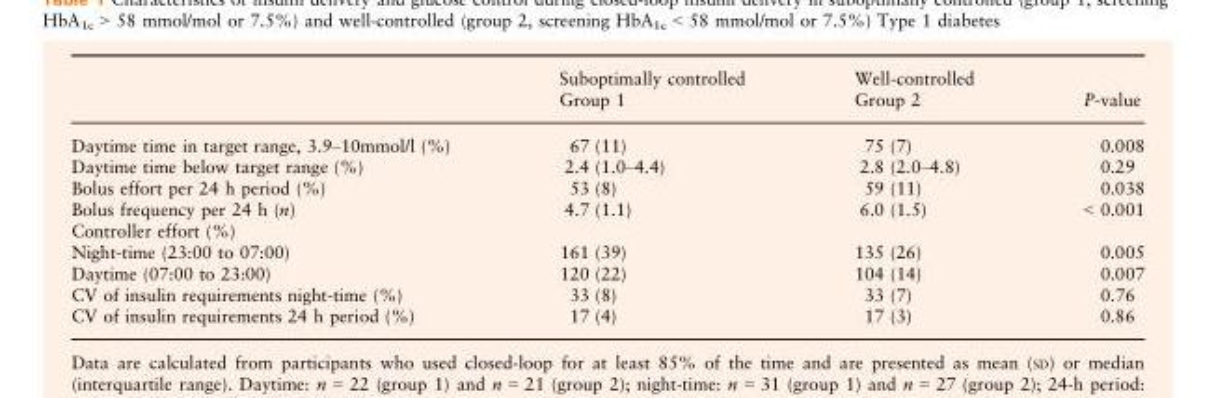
<table><thead><tr><td></td><td>Suboptimally controlled Group 1</td><td>Well-controlled Group 2</td><td>P-value</td></tr></thead><tbody><tr><td>Daytime time in target range, 3.9–10mmol/l (%)</td><td>67 (11)</td><td>75 (7)</td><td>0.008</td></tr><tr><td>Daytime time below target range (%)</td><td>2.4 (1.0–4.4)</td><td>2.8 (2.0–4.8)</td><td>0.29</td></tr><tr><td>Bolus effort per 24 h period (%)</td><td>53 (8)</td><td>59 (11)</td><td>0.038</td></tr><tr><td>Bolus frequency per 24 h (n)</td><td>4.7 (1.1)</td><td>6.0 (1.5)</td><td>&lt; 0.001</td></tr><tr><td colspan="4">Controller effort (%)</td></tr><tr><td>Night-time (23:00 to 07:00)</td><td>161 (39)</td><td>135 (26)</td><td>0.005</td></tr><tr><td>Daytime (07:00 to 23:00)</td><td>120 (22)</td><td>104 (14)</td><td>0.007</td></tr><tr><td>CV of insulin requirements night-time (%)</td><td>33 (8)</td><td>33 (7)</td><td>0.76</td></tr><tr><td>CV of insulin requirements 24 h period (%)</td><td>17 (4)</td><td>17 (3)</td><td>0.86</td></tr></tbody></table>